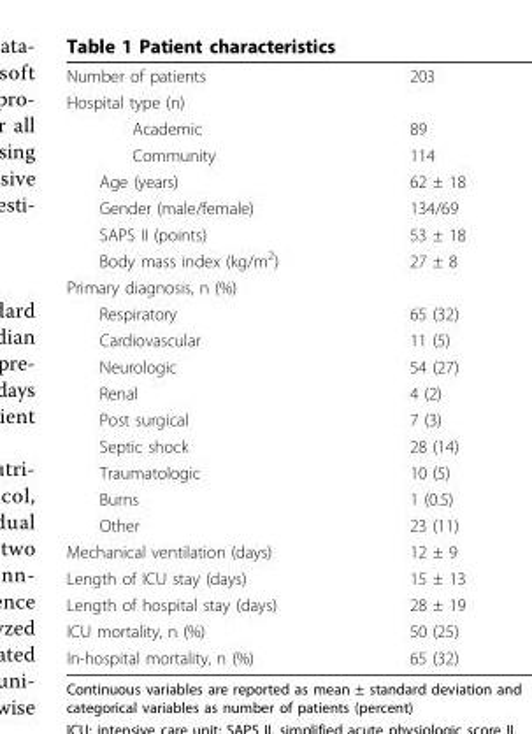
<table><tbody><tr><td>Number of patients</td><td>203</td></tr><tr><td colspan="2">Hospital type (n)</td></tr><tr><td>Academic</td><td>89</td></tr><tr><td>Community</td><td>114</td></tr><tr><td>Age (years)</td><td>62 ± 18</td></tr><tr><td>Gender (male/female)</td><td>134/69</td></tr><tr><td>SAPS II (points)</td><td>53 ± 18</td></tr><tr><td>Body mass index (kg/m<sup>2</sup>)</td><td>27 ± 8</td></tr><tr><td colspan="2">Primary diagnosis, n (%)</td></tr><tr><td>Respiratory</td><td>65 (32)</td></tr><tr><td>Cardiovascular</td><td>11 (5)</td></tr><tr><td>Neurologic</td><td>54 (27)</td></tr><tr><td>Renal</td><td>4 (2)</td></tr><tr><td>Post surgical</td><td>7 (3)</td></tr><tr><td>Septic shock</td><td>28 (14)</td></tr><tr><td>Traumatologic</td><td>10 (5)</td></tr><tr><td>Burns</td><td>1 (0.5)</td></tr><tr><td>Other</td><td>23 (11)</td></tr><tr><td>Mechanical ventilation (days)</td><td>12 ± 9</td></tr><tr><td>Length of ICU stay (days)</td><td>15 ± 13</td></tr><tr><td>Length of hospital stay (days)</td><td>28 ± 19</td></tr><tr><td>ICU mortality, n (%)</td><td>50 (25)</td></tr><tr><td>In-hospital mortality, n (%)</td><td>65 (32)</td></tr></tbody></table>